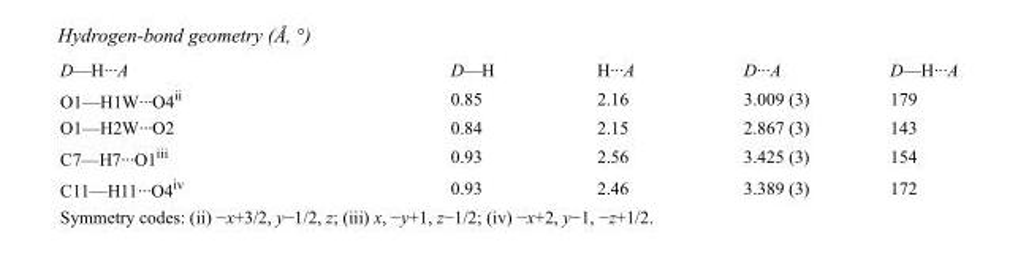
<table><tbody><tr><td>D—H···A</td><td>D—H</td><td>H···A</td><td>D···A</td><td>D—H···A</td></tr><tr><td>O1—H1W···O4<sup>ii</sup></td><td>0.85</td><td>2.16</td><td>3.009 (3)</td><td>179</td></tr><tr><td>O1—H2W···O2</td><td>0.84</td><td>2.15</td><td>2.867 (3)</td><td>143</td></tr><tr><td>C7—H7···O1<sup>iii</sup></td><td>0.93</td><td>2.56</td><td>3.425 (3)</td><td>154</td></tr><tr><td>C11—H11···O4<sup>iv</sup></td><td>0.93</td><td>2.46</td><td>3.389 (3)</td><td>172</td></tr></tbody></table>